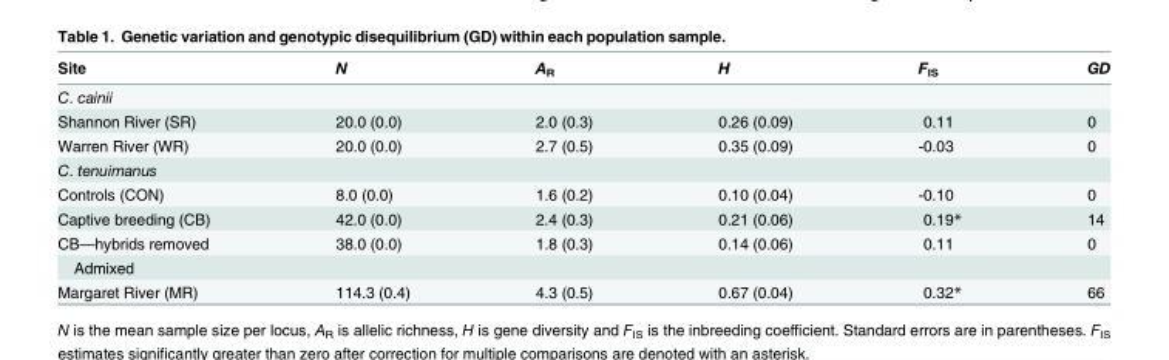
<table><thead><tr><td>Site</td><td>N</td><td>A<sub>R</sub></td><td>H</td><td>F<sub>IS</sub></td><td>GD</td></tr></thead><tbody><tr><td colspan="6">C. cainii</td></tr><tr><td>Shannon River (SR)</td><td>20.0 (0.0)</td><td>2.0 (0.3)</td><td>0.26 (0.09)</td><td>0.11</td><td>0</td></tr><tr><td>Warren River (WR)</td><td>20.0 (0.0)</td><td>2.7 (0.5)</td><td>0.35 (0.09)</td><td>-0.03</td><td>0</td></tr><tr><td colspan="6">C. tenuimanus</td></tr><tr><td>Controls (CON)</td><td>8.0 (0.0)</td><td>1.6 (0.2)</td><td>0.10 (0.04)</td><td>-0.10</td><td>0</td></tr><tr><td>Captive breeding (CB)</td><td>42.0 (0.0)</td><td>2.4 (0.3)</td><td>0.21 (0.06)</td><td>0.19*</td><td>14</td></tr><tr><td>CB—hybrids removed</td><td>38.0 (0.0)</td><td>1.8 (0.3)</td><td>0.14 (0.06)</td><td>0.11</td><td>0</td></tr><tr><td colspan="6">Admixed</td></tr><tr><td>Margaret River (MR)</td><td>114.3 (0.4)</td><td>4.3 (0.5)</td><td>0.67 (0.04)</td><td>0.32*</td><td>66</td></tr></tbody></table>